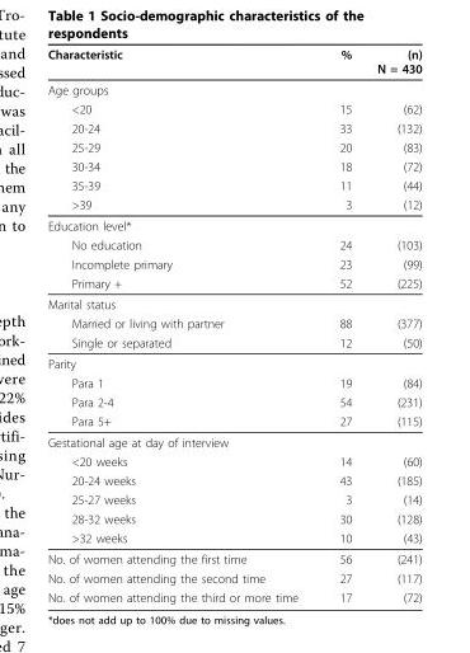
<table><thead><tr><td>Characteristic</td><td>%</td><td>(n) N = 430</td></tr></thead><tbody><tr><td colspan="3">Age groups</td></tr><tr><td>&lt;20</td><td>15</td><td>(62)</td></tr><tr><td>20-24</td><td>33</td><td>(132)</td></tr><tr><td>25-29</td><td>20</td><td>(83)</td></tr><tr><td>30-34</td><td>18</td><td>(72)</td></tr><tr><td>35-39</td><td>11</td><td>(44)</td></tr><tr><td>&gt;39</td><td>3</td><td>(12)</td></tr><tr><td colspan="3">Education level*</td></tr><tr><td>No education</td><td>24</td><td>(103)</td></tr><tr><td>Incomplete primary</td><td>23</td><td>(99)</td></tr><tr><td>Primary +</td><td>52</td><td>(225)</td></tr><tr><td colspan="3">Marital status</td></tr><tr><td>Married or living with partner</td><td>88</td><td>(377)</td></tr><tr><td>Single or separated</td><td>12</td><td>(50)</td></tr><tr><td colspan="3">Parity</td></tr><tr><td>Para 1</td><td>19</td><td>(84)</td></tr><tr><td>Para 2-4</td><td>54</td><td>(231)</td></tr><tr><td>Para 5+</td><td>27</td><td>(115)</td></tr><tr><td colspan="3">Gestational age at day of interview</td></tr><tr><td>&lt;20 weeks</td><td>14</td><td>(60)</td></tr><tr><td>20-24 weeks</td><td>43</td><td>(185)</td></tr><tr><td>25-27 weeks</td><td>3</td><td>(14)</td></tr><tr><td>28-32 weeks</td><td>30</td><td>(128)</td></tr><tr><td>&gt;32 weeks</td><td>10</td><td>(43)</td></tr><tr><td>No. of women attending the first time</td><td>56</td><td>(241)</td></tr><tr><td>No. of women attending the second time</td><td>27</td><td>(117)</td></tr><tr><td>No. of women attending the third or more time</td><td>17</td><td>(72)</td></tr></tbody></table>